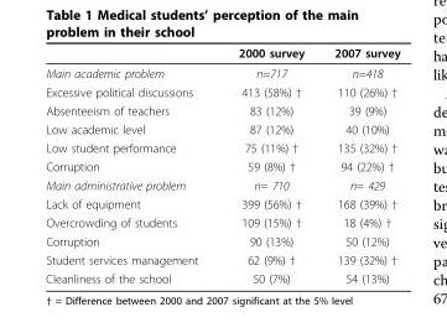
<table><thead><tr><td></td><td>2000 survey</td><td>2007 survey</td></tr></thead><tbody><tr><td>Main academic problem</td><td>n=717</td><td>n=418</td></tr><tr><td>Excessive political discussions</td><td>413 (58%) †</td><td>110 (26%) †</td></tr><tr><td>Absenteeism of teachers</td><td>83 (12%)</td><td>39 (9%)</td></tr><tr><td>Low academic level</td><td>87 (12%)</td><td>40 (10%)</td></tr><tr><td>Low student performance</td><td>75 (11%) †</td><td>135 (32%) †</td></tr><tr><td>Corruption</td><td>59 (8%) †</td><td>94 (22%) †</td></tr><tr><td>Main administrative problem</td><td>n= 710</td><td>n= 429</td></tr><tr><td>Lack of equipment</td><td>399 (56%) †</td><td>168 (39%) †</td></tr><tr><td>Overcrowding of students</td><td>109 (15%) †</td><td>18 (4%) †</td></tr><tr><td>Corruption</td><td>90 (13%)</td><td>50 (12%)</td></tr><tr><td>Student services management</td><td>62 (9%) †</td><td>139 (32%) †</td></tr><tr><td>Cleanliness of the school</td><td>50 (7%)</td><td>54 (13%)</td></tr></tbody></table>